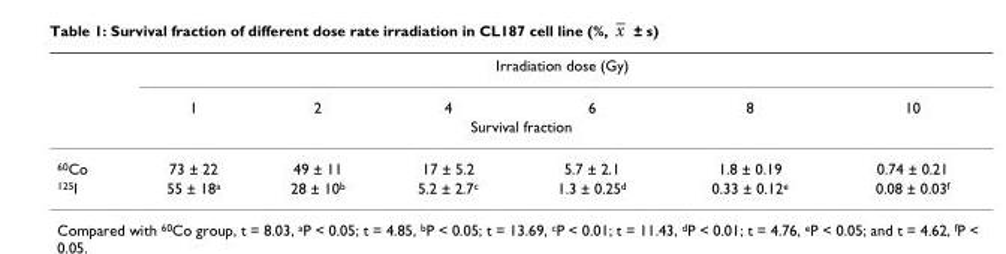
<table><thead><tr><td rowspan="2"></td><td colspan="6">Irradiation dose (Gy)</td></tr><tr><td>1</td><td>2</td><td>4</td><td>6</td><td>8</td><td>10</td></tr><tr><td colspan="7">Survival fraction</td></tr></thead><tbody><tr><td><sup>60</sup>Co</td><td>73 ± 22</td><td>49 ± 11</td><td>17 ± 5.2</td><td>5.7 ± 2.1</td><td>1.8 ± 0.19</td><td>0.74 ± 0.21</td></tr><tr><td><sup>125</sup>I</td><td>55 ± 18<sup>a</sup></td><td>28 ± 10<sup>b</sup></td><td>5.2 ± 2.7<sup>c</sup></td><td>1.3 ± 0.25<sup>d</sup></td><td>0.33 ± 0.12<sup>e</sup></td><td>0.08 ± 0.03<sup>f</sup></td></tr></tbody></table>